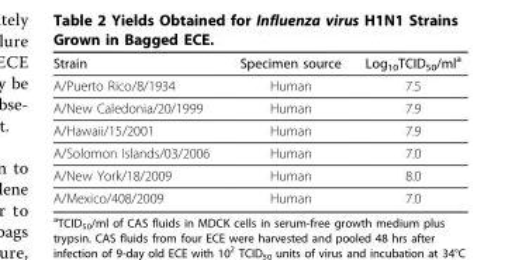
<table><thead><tr><td>Strain</td><td>Specimen source</td><td>Log<sub>10</sub>TCID<sub>50</sub>/ml<sup>a</sup></td></tr></thead><tbody><tr><td>A/Puerto Rico/8/1934</td><td>Human</td><td>7.5</td></tr><tr><td>A/New Caledonia/20/1999</td><td>Human</td><td>7.9</td></tr><tr><td>A/Hawaii/15/2001</td><td>Human</td><td>7.9</td></tr><tr><td>A/Solomon Islands/03/2006</td><td>Human</td><td>7.0</td></tr><tr><td>A/New York/18/2009</td><td>Human</td><td>8.0</td></tr><tr><td>A/Mexico/408/2009</td><td>Human</td><td>7.0</td></tr></tbody></table>